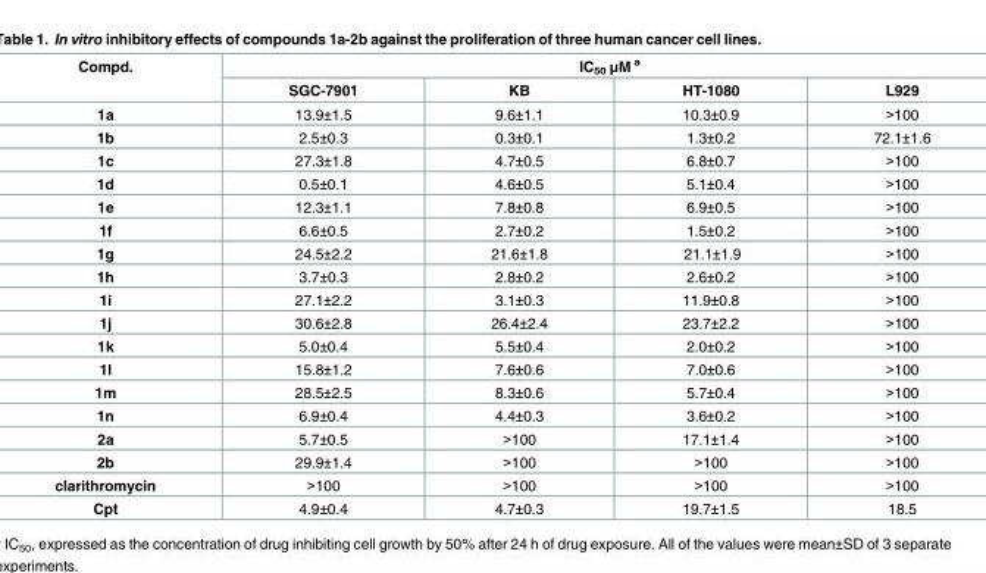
<table><thead><tr><td rowspan="2">Compd.</td><td colspan="4">IC<sub>50</sub> μM <sup>a</sup></td></tr><tr><td>SGC-7901</td><td>KB</td><td>HT-1080</td><td>L929</td></tr></thead><tbody><tr><td>1a</td><td>13.9±1.5</td><td>9.6±1.1</td><td>10.3±0.9</td><td>&gt;100</td></tr><tr><td>1b</td><td>2.5±0.3</td><td>0.3±0.1</td><td>1.3±0.2</td><td>72.1±1.6</td></tr><tr><td>1c</td><td>27.3±1.8</td><td>4.7±0.5</td><td>6.8±0.7</td><td>&gt;100</td></tr><tr><td>1d</td><td>0.5±0.1</td><td>4.6±0.5</td><td>5.1±0.4</td><td>&gt;100</td></tr><tr><td>1e</td><td>12.3±1.1</td><td>7.8±0.8</td><td>6.9±0.5</td><td>&gt;100</td></tr><tr><td>1f</td><td>6.6±0.5</td><td>2.7±0.2</td><td>1.5±0.2</td><td>&gt;100</td></tr><tr><td>1g</td><td>24.5±2.2</td><td>21.6±1.8</td><td>21.1±1.9</td><td>&gt;100</td></tr><tr><td>1h</td><td>3.7±0.3</td><td>2.8±0.2</td><td>2.6±0.2</td><td>&gt;100</td></tr><tr><td>1i</td><td>27.1±2.2</td><td>3.1±0.3</td><td>11.9±0.8</td><td>&gt;100</td></tr><tr><td>1j</td><td>30.6±2.8</td><td>26.4±2.4</td><td>23.7±2.2</td><td>&gt;100</td></tr><tr><td>1k</td><td>5.0±0.4</td><td>5.5±0.4</td><td>2.0±0.2</td><td>&gt;100</td></tr><tr><td>1l</td><td>15.8±1.2</td><td>7.6±0.6</td><td>7.0±0.6</td><td>&gt;100</td></tr><tr><td>1m</td><td>28.5±2.5</td><td>8.3±0.6</td><td>5.7±0.4</td><td>&gt;100</td></tr><tr><td>1n</td><td>6.9±0.4</td><td>4.4±0.3</td><td>3.6±0.2</td><td>&gt;100</td></tr><tr><td>2a</td><td>5.7±0.5</td><td>&gt;100</td><td>17.1±1.4</td><td>&gt;100</td></tr><tr><td>2b</td><td>29.9±1.4</td><td>&gt;100</td><td>&gt;100</td><td>&gt;100</td></tr><tr><td>clarithromycin</td><td>&gt;100</td><td>&gt;100</td><td>&gt;100</td><td>&gt;100</td></tr><tr><td>Cpt</td><td>4.9±0.4</td><td>4.7±0.3</td><td>19.7±1.5</td><td>18.5</td></tr></tbody></table>